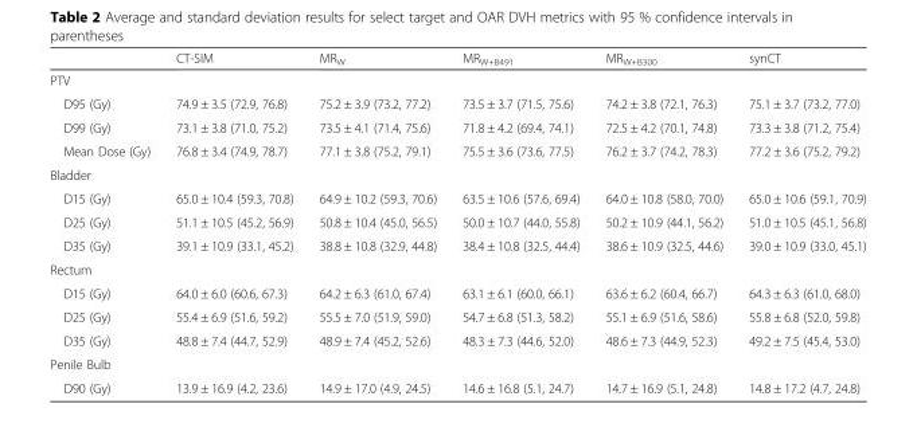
<table><thead><tr><td></td><td>CT-SIM</td><td>MR<sub>W</sub></td><td>MR<sub>W+B491</sub></td><td>MR<sub>W+B300</sub></td><td>synCT</td></tr></thead><tbody><tr><td colspan="6">PTV</td></tr><tr><td>D95 (Gy)</td><td>74.9 ± 3.5 (72.9, 76.8)</td><td>75.2 ± 3.9 (73.2, 77.2)</td><td>73.5 ± 3.7 (71.5, 75.6)</td><td>74.2 ± 3.8 (72.1, 76.3)</td><td>75.1 ± 3.7 (73.2, 77.0)</td></tr><tr><td>D99 (Gy)</td><td>73.1 ± 3.8 (71.0, 75.2)</td><td>73.5 ± 4.1 (71.4, 75.6)</td><td>71.8 ± 4.2 (69.4, 74.1)</td><td>72.5 ± 4.2 (70.1, 74.8)</td><td>73.3 ± 3.8 (71.2, 75.4)</td></tr><tr><td>Mean Dose (Gy)</td><td>76.8 ± 3.4 (74.9, 78.7)</td><td>77.1 ± 3.8 (75.2, 79.1)</td><td>75.5 ± 3.6 (73.6, 77.5)</td><td>76.2 ± 3.7 (74.2, 78.3)</td><td>77.2 ± 3.6 (75.2, 79.2)</td></tr><tr><td colspan="6">Bladder</td></tr><tr><td>D15 (Gy)</td><td>65.0 ± 10.4 (59.3, 70.8)</td><td>64.9 ± 10.2 (59.3, 70.6)</td><td>63.5 ± 10.6 (57.6, 69.4)</td><td>64.0 ± 10.8 (58.0, 70.0)</td><td>65.0 ± 10.6 (59.1, 70.9)</td></tr><tr><td>D25 (Gy)</td><td>51.1 ± 10.5 (45.2, 56.9)</td><td>50.8 ± 10.4 (45.0, 56.5)</td><td>50.0 ± 10.7 (44.0, 55.8)</td><td>50.2 ± 10.9 (44.1, 56.2)</td><td>51.0 ± 10.5 (45.1, 56.8)</td></tr><tr><td>D35 (Gy)</td><td>39.1 ± 10.9 (33.1, 45.2)</td><td>38.8 ± 10.8 (32.9, 44.8)</td><td>38.4 ± 10.8 (32.5, 44.4)</td><td>38.6 ± 10.9 (32.5, 44.6)</td><td>39.0 ± 10.9 (33.0, 45.1)</td></tr><tr><td colspan="6">Rectum</td></tr><tr><td>D15 (Gy)</td><td>64.0 ± 6.0 (60.6, 67.3)</td><td>64.2 ± 6.3 (61.0, 67.4)</td><td>63.1 ± 6.1 (60.0, 66.1)</td><td>63.6 ± 6.2 (60.4, 66.7)</td><td>64.3 ± 6.3 (61.0, 68.0)</td></tr><tr><td>D25 (Gy)</td><td>55.4 ± 6.9 (51.6, 59.2)</td><td>55.5 ± 7.0 (51.9, 59.0)</td><td>54.7 ± 6.8 (51.3, 58.2)</td><td>55.1 ± 6.9 (51.6, 58.6)</td><td>55.8 ± 6.8 (52.0, 59.8)</td></tr><tr><td>D35 (Gy)</td><td>48.8 ± 7.4 (44.7, 52.9)</td><td>48.9 ± 7.4 (45.2, 52.6)</td><td>48.3 ± 7.3 (44.6, 52.0)</td><td>48.6 ± 7.3 (44.9, 52.3)</td><td>49.2 ± 7.5 (45.4, 53.0)</td></tr><tr><td colspan="6">Penile Bulb</td></tr><tr><td>D90 (Gy)</td><td>13.9 ± 16.9 (4.2, 23.6)</td><td>14.9 ± 17.0 (4.9, 24.5)</td><td>14.6 ± 16.8 (5.1, 24.7)</td><td>14.7 ± 16.9 (5.1, 24.8)</td><td>14.8 ± 17.2 (4.7, 24.8)</td></tr></tbody></table>